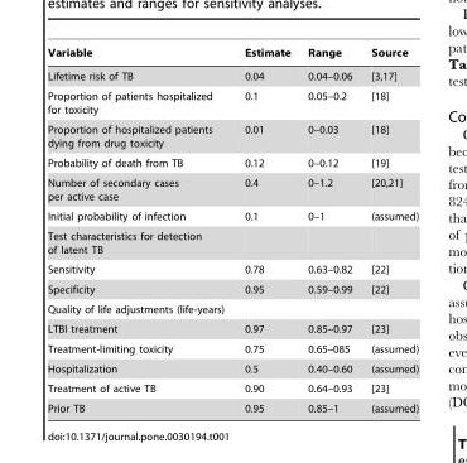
<table><thead><tr><td>Variable</td><td>Estimate</td><td>Range</td><td>Source</td></tr></thead><tbody><tr><td>Lifetime risk of TB</td><td>0.04</td><td>0.04–0.06</td><td>[3,17]</td></tr><tr><td>Proportion of patients hospitalized for toxicity</td><td>0.1</td><td>0.05–0.2</td><td>[18]</td></tr><tr><td>Proportion of hospitalized patients dying from drug toxicity</td><td>0.01</td><td>0–0.03</td><td>[18]</td></tr><tr><td>Probability of death from TB</td><td>0.12</td><td>0–0.12</td><td>[19]</td></tr><tr><td>Number of secondary cases per active case</td><td>0.4</td><td>0–1.2</td><td>[20,21]</td></tr><tr><td>Initial probability of infection</td><td>0.1</td><td>0–1</td><td>(assumed)</td></tr><tr><td colspan="4">Test characteristics for detection of latent TB</td></tr><tr><td>Sensitivity</td><td>0.78</td><td>0.63–0.82</td><td>[22]</td></tr><tr><td>Specificity</td><td>0.95</td><td>0.59–0.99</td><td>[22]</td></tr><tr><td colspan="4">Quality of life adjustments (life-years)</td></tr><tr><td>LTBI treatment</td><td>0.97</td><td>0.85–0.97</td><td>[23]</td></tr><tr><td>Treatment-limiting toxicity</td><td>0.75</td><td>0.65–085</td><td>(assumed)</td></tr><tr><td>Hospitalization</td><td>0.5</td><td>0.40–0.60</td><td>(assumed)</td></tr><tr><td>Treatment of active TB</td><td>0.90</td><td>0.64–0.93</td><td>[23]</td></tr><tr><td>Prior TB</td><td>0.95</td><td>0.85–1</td><td>(assumed)</td></tr></tbody></table>